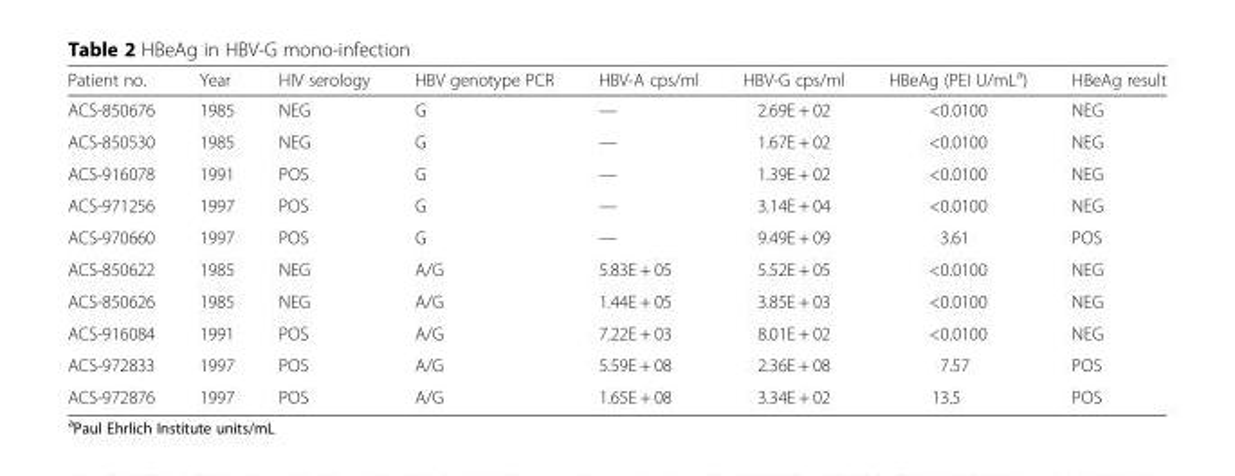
<table><thead><tr><td>Patient no.</td><td>Year</td><td>HIV serology</td><td>HBV genotype PCR</td><td>HBV-A cps/ml</td><td>HBV-G cps/ml</td><td>HBeAg (PEI U/mL<sup>a</sup>)</td><td>HBeAg result</td></tr></thead><tbody><tr><td>ACS-850676</td><td>1985</td><td>NEG</td><td>G</td><td>—</td><td>2.69E + 02</td><td>&lt;0.0100</td><td>NEG</td></tr><tr><td>ACS-850530</td><td>1985</td><td>NEG</td><td>G</td><td>—</td><td>1.67E + 02</td><td>&lt;0.0100</td><td>NEG</td></tr><tr><td>ACS-916078</td><td>1991</td><td>POS</td><td>G</td><td>—</td><td>1.39E + 02</td><td>&lt;0.0100</td><td>NEG</td></tr><tr><td>ACS-971256</td><td>1997</td><td>POS</td><td>G</td><td>—</td><td>3.14E + 04</td><td>&lt;0.0100</td><td>NEG</td></tr><tr><td>ACS-970660</td><td>1997</td><td>POS</td><td>G</td><td>—</td><td>9.49E + 09</td><td>3.61</td><td>POS</td></tr><tr><td>ACS-850622</td><td>1985</td><td>NEG</td><td>A/G</td><td>5.83E + 05</td><td>5.52E + 05</td><td>&lt;0.0100</td><td>NEG</td></tr><tr><td>ACS-850626</td><td>1985</td><td>NEG</td><td>A/G</td><td>1.44E + 05</td><td>3.85E + 03</td><td>&lt;0.0100</td><td>NEG</td></tr><tr><td>ACS-916084</td><td>1991</td><td>POS</td><td>A/G</td><td>7.22E + 03</td><td>8.01E + 02</td><td>&lt;0.0100</td><td>NEG</td></tr><tr><td>ACS-972833</td><td>1997</td><td>POS</td><td>A/G</td><td>5.59E + 08</td><td>2.36E + 08</td><td>7.57</td><td>POS</td></tr><tr><td>ACS-972876</td><td>1997</td><td>POS</td><td>A/G</td><td>1.65E + 08</td><td>3.34E + 02</td><td>13.5</td><td>POS</td></tr></tbody></table>